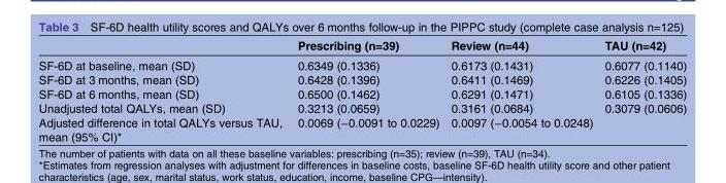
<table><thead><tr><td></td><td>Prescribing (n=39)</td><td>Review (n=44)</td><td>TAU (n=42)</td></tr></thead><tbody><tr><td>SF-6D at baseline, mean (SD)</td><td>0.6349 (0.1336)</td><td>0.6173 (0.1431)</td><td>0.6077 (0.1140)</td></tr><tr><td>SF-6D at 3 months, mean (SD)</td><td>0.6428 (0.1396)</td><td>0.6411 (0.1469)</td><td>0.6226 (0.1405)</td></tr><tr><td>SF-6D at 6 months, mean (SD)</td><td>0.6500 (0.1462)</td><td>0.6291 (0.1471)</td><td>0.6105 (0.1336)</td></tr><tr><td>Unadjusted total QALYs, mean (SD)</td><td>0.3213 (0.0659)</td><td>0.3161 (0.0684)</td><td>0.3079 (0.0606)</td></tr><tr><td>Adjusted difference in total QALYs versus TAU, mean (95% CI)*</td><td>0.0069 (−0.0091 to 0.0229)</td><td>0.0097 (−0.0054 to 0.0248)</td><td></td></tr></tbody></table>